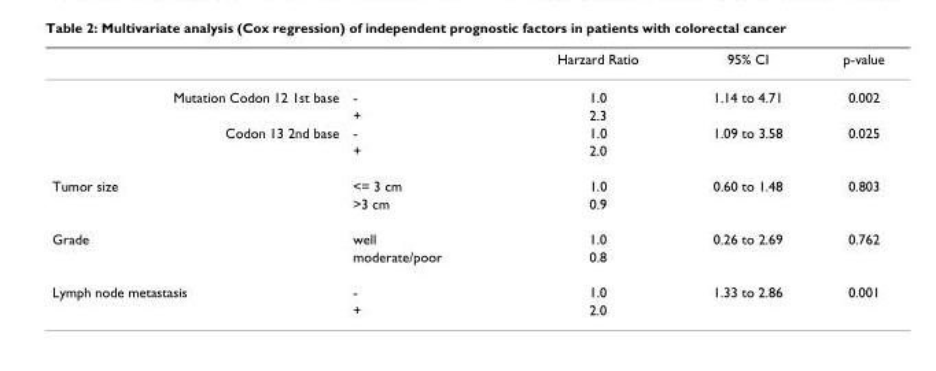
<table><thead><tr><td></td><td></td><td>Harzard Ratio</td><td>95% CI</td><td>p-value</td></tr></thead><tbody><tr><td rowspan="2">Mutation Codon 12 1st base</td><td>-</td><td>1.0</td><td>1.14 to 4.71</td><td>0.002</td></tr><tr><td>+</td><td>2.3</td><td></td><td></td></tr><tr><td rowspan="2">Codon 13 2nd base</td><td>-</td><td>1.0</td><td>1.09 to 3.58</td><td>0.025</td></tr><tr><td>+</td><td>2.0</td><td></td><td></td></tr><tr><td rowspan="2">Tumor size</td><td>&lt;= 3 cm</td><td>1.0</td><td>0.60 to 1.48</td><td>0.803</td></tr><tr><td>&gt;3 cm</td><td>0.9</td><td></td><td></td></tr><tr><td rowspan="2">Grade</td><td>well</td><td>1.0</td><td>0.26 to 2.69</td><td>0.762</td></tr><tr><td>moderate/poor</td><td>0.8</td><td></td><td></td></tr><tr><td rowspan="2">Lymph node metastasis</td><td>-</td><td>1.0</td><td>1.33 to 2.86</td><td>0.001</td></tr><tr><td>+</td><td>2.0</td><td></td><td></td></tr></tbody></table>